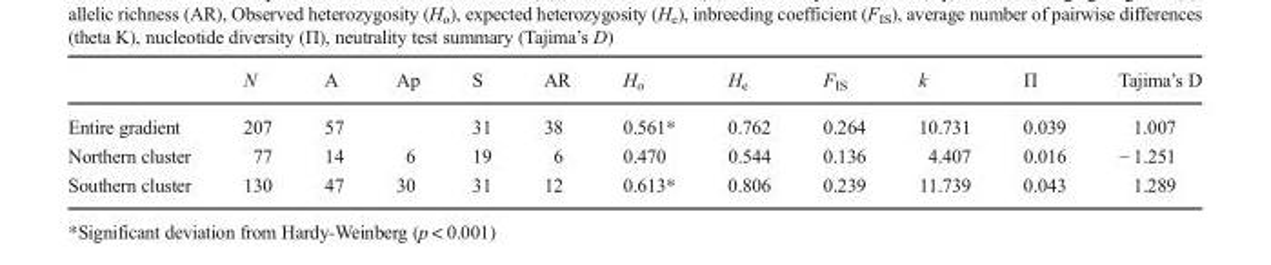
<table><thead><tr><td></td><td>N</td><td>A</td><td>Ap</td><td>S</td><td>AR</td><td>H<sub>o</sub></td><td>H<sub>e</sub></td><td>F<sub>IS</sub></td><td>k</td><td>П</td><td>Tajima’s D</td></tr></thead><tbody><tr><td>Entire gradient</td><td>207</td><td>57</td><td></td><td>31</td><td>38</td><td>0.561*</td><td>0.762</td><td>0.264</td><td>10.731</td><td>0.039</td><td>1.007</td></tr><tr><td>Northern cluster</td><td>77</td><td>14</td><td>6</td><td>19</td><td>6</td><td>0.470</td><td>0.544</td><td>0.136</td><td>4.407</td><td>0.016</td><td>− 1.251</td></tr><tr><td>Southern cluster</td><td>130</td><td>47</td><td>30</td><td>31</td><td>12</td><td>0.613*</td><td>0.806</td><td>0.239</td><td>11.739</td><td>0.043</td><td>1.289</td></tr></tbody></table>